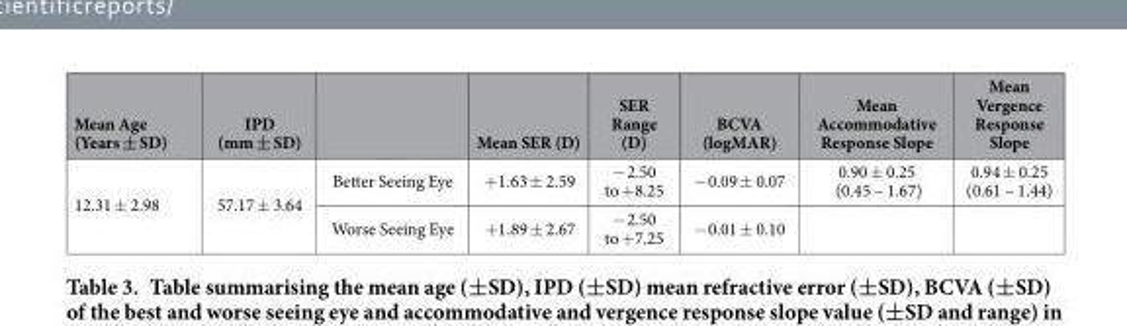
<table><thead><tr><td>Mean Age (Years ± SD)</td><td>IPD (mm ± SD)</td><td></td><td>Mean SER (D)</td><td>SER Range (D)</td><td>BCVA (logMAR)</td><td>Mean Accommodative Response Slope</td><td>Mean Vergence Response Slope</td></tr></thead><tbody><tr><td rowspan="2">12.31 ± 2.98</td><td rowspan="2">57.17 ± 3.64</td><td>Better Seeing Eye</td><td>+1.63 ± 2.59</td><td>− 2.50 to +8.25</td><td>− 0.09 ± 0.07</td><td>0.90 ± 0.25 (0.45 – 1.67)</td><td>0.94 ± 0.25 (0.61 – 1.44)</td></tr><tr><td>Worse Seeing Eye</td><td>+1.89 ± 2.67</td><td>− 2.50 to +7.25</td><td>− 0.01 ± 0.10</td><td></td><td></td></tr></tbody></table>